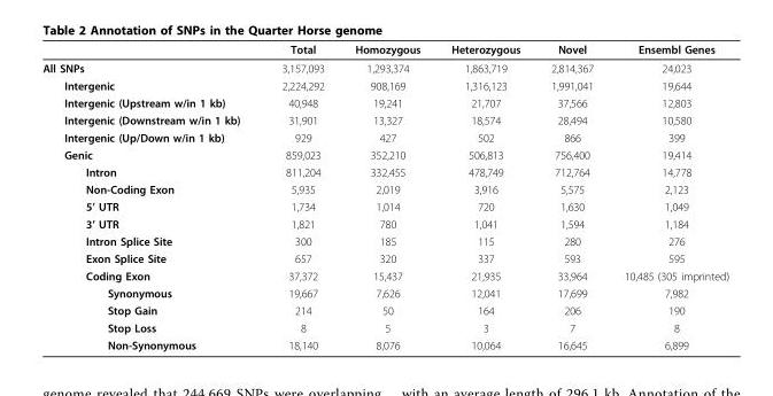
<table><thead><tr><td></td><td>Total</td><td>Homozygous</td><td>Heterozygous</td><td>Novel</td><td>Ensembl Genes</td></tr></thead><tbody><tr><td>All SNPs</td><td>3,157,093</td><td>1,293,374</td><td>1,863,719</td><td>2,814,367</td><td>24,023</td></tr><tr><td>Intergenic</td><td>2,224,292</td><td>908,169</td><td>1,316,123</td><td>1,991,041</td><td>19,644</td></tr><tr><td>Intergenic (Upstream w/in 1 kb)</td><td>40,948</td><td>19,241</td><td>21,707</td><td>37,566</td><td>12,803</td></tr><tr><td>Intergenic (Downstream w/in 1 kb)</td><td>31,901</td><td>13,327</td><td>18,574</td><td>28,494</td><td>10,580</td></tr><tr><td>Intergenic (Up/Down w/in 1 kb)</td><td>929</td><td>427</td><td>502</td><td>866</td><td>399</td></tr><tr><td>Genic</td><td>859,023</td><td>352,210</td><td>506,813</td><td>756,400</td><td>19,414</td></tr><tr><td>Intron</td><td>811,204</td><td>332,455</td><td>478,749</td><td>712,764</td><td>14,778</td></tr><tr><td>Non-Coding Exon</td><td>5,935</td><td>2,019</td><td>3,916</td><td>5,575</td><td>2,123</td></tr><tr><td>5’ UTR</td><td>1,734</td><td>1,014</td><td>720</td><td>1,630</td><td>1,049</td></tr><tr><td>3’ UTR</td><td>1,821</td><td>780</td><td>1,041</td><td>1,594</td><td>1,184</td></tr><tr><td>Intron Splice Site</td><td>300</td><td>185</td><td>115</td><td>280</td><td>276</td></tr><tr><td>Exon Splice Site</td><td>657</td><td>320</td><td>337</td><td>593</td><td>595</td></tr><tr><td>Coding Exon</td><td>37,372</td><td>15,437</td><td>21,935</td><td>33,964</td><td>10,485 (305 imprinted)</td></tr><tr><td>Synonymous</td><td>19,667</td><td>7,626</td><td>12,041</td><td>17,699</td><td>7,982</td></tr><tr><td>Stop Gain</td><td>214</td><td>50</td><td>164</td><td>206</td><td>190</td></tr><tr><td>Stop Loss</td><td>8</td><td>5</td><td>3</td><td>7</td><td>8</td></tr><tr><td>Non-Synonymous</td><td>18,140</td><td>8,076</td><td>10,064</td><td>16,645</td><td>6,899</td></tr></tbody></table>